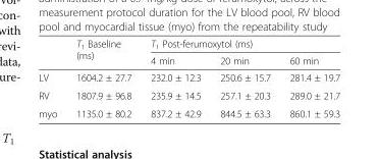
<table><thead><tr><td rowspan="2"></td><td rowspan="2">T<sub>1</sub> Baseline (ms)</td><td colspan="3">T<sub>1</sub> Post-ferumoxytol (ms)</td></tr><tr><td>4 min</td><td>20 min</td><td>60 min</td></tr></thead><tbody><tr><td>LV</td><td>1604.2 ± 27.7</td><td>232.0 ± 12.3</td><td>250.6 ± 15.7</td><td>281.4 ± 19.7</td></tr><tr><td>RV</td><td>1807.9 ± 96.8</td><td>235.9 ± 14.5</td><td>257.1 ± 20.3</td><td>289.0 ± 21.7</td></tr><tr><td>myo</td><td>1135.0 ± 80.2</td><td>837.2 ± 42.9</td><td>844.5 ± 63.3</td><td>860.1 ± 59.3</td></tr></tbody></table>